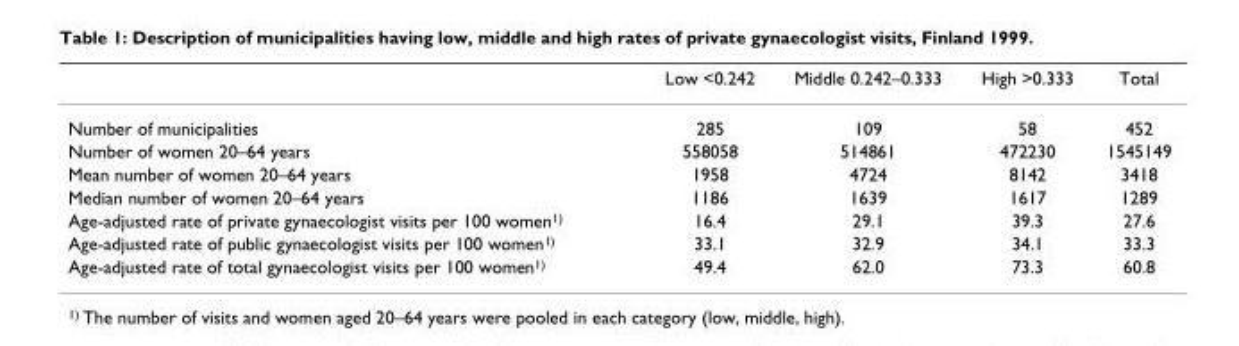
<table><thead><tr><td></td><td>Low &lt;0.242</td><td>Middle 0.242–0.333</td><td>High &gt;0.333</td><td>Total</td></tr></thead><tbody><tr><td>Number of municipalities</td><td>285</td><td>109</td><td>58</td><td>452</td></tr><tr><td>Number of women 20–64 years</td><td>558058</td><td>514861</td><td>472230</td><td>1545149</td></tr><tr><td>Mean number of women 20–64 years</td><td>1958</td><td>4724</td><td>8142</td><td>3418</td></tr><tr><td>Median number of women 20–64 years</td><td>1186</td><td>1639</td><td>1617</td><td>1289</td></tr><tr><td>Age-adjusted rate of private gynaecologist visits per 100 women1)</td><td>16.4</td><td>29.1</td><td>39.3</td><td>27.6</td></tr><tr><td>Age-adjusted rate of public gynaecologist visits per 100 women1)</td><td>33.1</td><td>32.9</td><td>34.1</td><td>33.3</td></tr><tr><td>Age-adjusted rate of total gynaecologist visits per 100 women1)</td><td>49.4</td><td>62.0</td><td>73.3</td><td>60.8</td></tr></tbody></table>